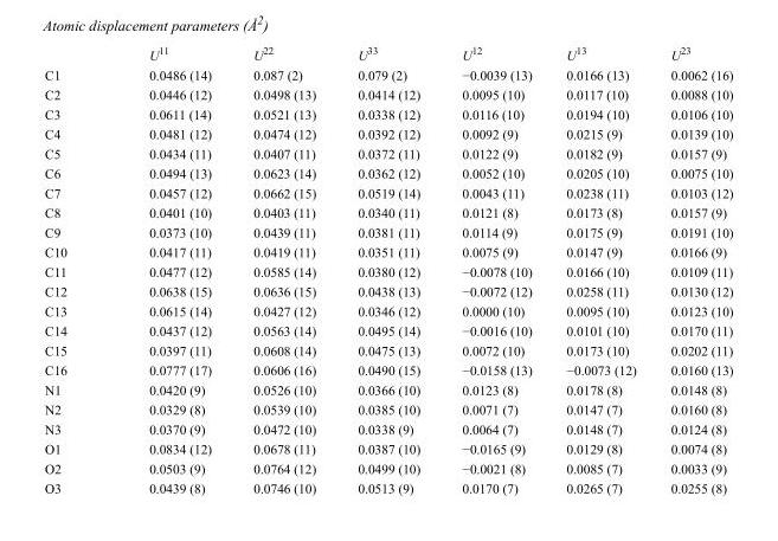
<table><thead><tr><td></td><td>U<sup>11</sup></td><td>U<sup>22</sup></td><td>U<sup>33</sup></td><td>U<sup>12</sup></td><td>U<sup>13</sup></td><td>U<sup>23</sup></td></tr></thead><tbody><tr><td>C1</td><td>0.0486 (14)</td><td>0.087 (2)</td><td>0.079 (2)</td><td>−0.0039 (13)</td><td>0.0166 (13)</td><td>0.0062 (16)</td></tr><tr><td>C2</td><td>0.0446 (12)</td><td>0.0498 (13)</td><td>0.0414 (12)</td><td>0.0095 (10)</td><td>0.0117 (10)</td><td>0.0088 (10)</td></tr><tr><td>C3</td><td>0.0611 (14)</td><td>0.0521 (13)</td><td>0.0338 (12)</td><td>0.0116 (10)</td><td>0.0194 (10)</td><td>0.0106 (10)</td></tr><tr><td>C4</td><td>0.0481 (12)</td><td>0.0474 (12)</td><td>0.0392 (12)</td><td>0.0092 (9)</td><td>0.0215 (9)</td><td>0.0139 (10)</td></tr><tr><td>C5</td><td>0.0434 (11)</td><td>0.0407 (11)</td><td>0.0372 (11)</td><td>0.0122 (9)</td><td>0.0182 (9)</td><td>0.0157 (9)</td></tr><tr><td>C6</td><td>0.0494 (13)</td><td>0.0623 (14)</td><td>0.0362 (12)</td><td>0.0052 (10)</td><td>0.0205 (10)</td><td>0.0075 (10)</td></tr><tr><td>C7</td><td>0.0457 (12)</td><td>0.0662 (15)</td><td>0.0519 (14)</td><td>0.0043 (11)</td><td>0.0238 (11)</td><td>0.0103 (12)</td></tr><tr><td>C8</td><td>0.0401 (10)</td><td>0.0403 (11)</td><td>0.0340 (11)</td><td>0.0121 (8)</td><td>0.0173 (8)</td><td>0.0157 (9)</td></tr><tr><td>C9</td><td>0.0373 (10)</td><td>0.0439 (11)</td><td>0.0381 (11)</td><td>0.0114 (9)</td><td>0.0175 (9)</td><td>0.0191 (10)</td></tr><tr><td>C10</td><td>0.0417 (11)</td><td>0.0419 (11)</td><td>0.0351 (11)</td><td>0.0075 (9)</td><td>0.0147 (9)</td><td>0.0166 (9)</td></tr><tr><td>C11</td><td>0.0477 (12)</td><td>0.0585 (14)</td><td>0.0380 (12)</td><td>−0.0078 (10)</td><td>0.0166 (10)</td><td>0.0109 (11)</td></tr><tr><td>C12</td><td>0.0638 (15)</td><td>0.0636 (15)</td><td>0.0438 (13)</td><td>−0.0072 (12)</td><td>0.0258 (11)</td><td>0.0130 (12)</td></tr><tr><td>C13</td><td>0.0615 (14)</td><td>0.0427 (12)</td><td>0.0346 (12)</td><td>0.0000 (10)</td><td>0.0095 (10)</td><td>0.0123 (10)</td></tr><tr><td>C14</td><td>0.0437 (12)</td><td>0.0563 (14)</td><td>0.0495 (14)</td><td>−0.0016 (10)</td><td>0.0101 (10)</td><td>0.0170 (11)</td></tr><tr><td>C15</td><td>0.0397 (11)</td><td>0.0608 (14)</td><td>0.0475 (13)</td><td>0.0072 (10)</td><td>0.0173 (10)</td><td>0.0202 (11)</td></tr><tr><td>C16</td><td>0.0777 (17)</td><td>0.0606 (16)</td><td>0.0490 (15)</td><td>−0.0158 (13)</td><td>−0.0073 (12)</td><td>0.0160 (13)</td></tr><tr><td>N1</td><td>0.0420 (9)</td><td>0.0526 (10)</td><td>0.0366 (10)</td><td>0.0123 (8)</td><td>0.0178 (8)</td><td>0.0148 (8)</td></tr><tr><td>N2</td><td>0.0329 (8)</td><td>0.0539 (10)</td><td>0.0385 (10)</td><td>0.0071 (7)</td><td>0.0147 (7)</td><td>0.0160 (8)</td></tr><tr><td>N3</td><td>0.0370 (9)</td><td>0.0472 (10)</td><td>0.0338 (9)</td><td>0.0064 (7)</td><td>0.0148 (7)</td><td>0.0124 (8)</td></tr><tr><td>O1</td><td>0.0834 (12)</td><td>0.0678 (11)</td><td>0.0387 (10)</td><td>−0.0165 (9)</td><td>0.0129 (8)</td><td>0.0074 (8)</td></tr><tr><td>O2</td><td>0.0503 (9)</td><td>0.0764 (12)</td><td>0.0499 (10)</td><td>−0.0021 (8)</td><td>0.0085 (7)</td><td>0.0033 (9)</td></tr><tr><td>O3</td><td>0.0439 (8)</td><td>0.0746 (10)</td><td>0.0513 (9)</td><td>0.0170 (7)</td><td>0.0265 (7)</td><td>0.0255 (8)</td></tr></tbody></table>